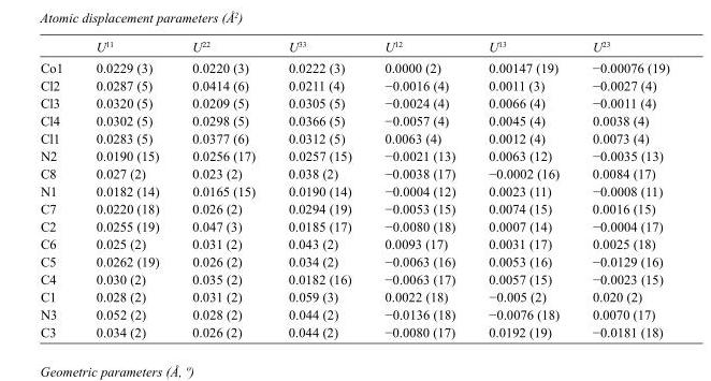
<table><thead><tr><td></td><td>U<sup>11</sup></td><td>U<sup>22</sup></td><td>U<sup>33</sup></td><td>U<sup>12</sup></td><td>U<sup>13</sup></td><td>U<sup>23</sup></td></tr></thead><tbody><tr><td>Co1</td><td>0.0229 (3)</td><td>0.0220 (3)</td><td>0.0222 (3)</td><td>0.0000 (2)</td><td>0.00147 (19)</td><td>−0.00076 (19)</td></tr><tr><td>Cl2</td><td>0.0287 (5)</td><td>0.0414 (6)</td><td>0.0211 (4)</td><td>−0.0016 (4)</td><td>0.0011 (3)</td><td>−0.0027 (4)</td></tr><tr><td>Cl3</td><td>0.0320 (5)</td><td>0.0209 (5)</td><td>0.0305 (5)</td><td>−0.0024 (4)</td><td>0.0066 (4)</td><td>−0.0011 (4)</td></tr><tr><td>Cl4</td><td>0.0302 (5)</td><td>0.0298 (5)</td><td>0.0366 (5)</td><td>−0.0057 (4)</td><td>0.0045 (4)</td><td>0.0038 (4)</td></tr><tr><td>Cl1</td><td>0.0283 (5)</td><td>0.0377 (6)</td><td>0.0312 (5)</td><td>0.0063 (4)</td><td>0.0012 (4)</td><td>0.0073 (4)</td></tr><tr><td>N2</td><td>0.0190 (15)</td><td>0.0256 (17)</td><td>0.0257 (15)</td><td>−0.0021 (13)</td><td>0.0063 (12)</td><td>−0.0035 (13)</td></tr><tr><td>C8</td><td>0.027 (2)</td><td>0.023 (2)</td><td>0.038 (2)</td><td>−0.0038 (17)</td><td>−0.0002 (16)</td><td>0.0084 (17)</td></tr><tr><td>N1</td><td>0.0182 (14)</td><td>0.0165 (15)</td><td>0.0190 (14)</td><td>−0.0004 (12)</td><td>0.0023 (11)</td><td>−0.0008 (11)</td></tr><tr><td>C7</td><td>0.0220 (18)</td><td>0.026 (2)</td><td>0.0294 (19)</td><td>−0.0053 (15)</td><td>0.0074 (15)</td><td>0.0016 (15)</td></tr><tr><td>C2</td><td>0.0255 (19)</td><td>0.047 (3)</td><td>0.0185 (17)</td><td>−0.0080 (18)</td><td>0.0007 (14)</td><td>−0.0004 (17)</td></tr><tr><td>C6</td><td>0.025 (2)</td><td>0.031 (2)</td><td>0.043 (2)</td><td>0.0093 (17)</td><td>0.0031 (17)</td><td>0.0025 (18)</td></tr><tr><td>C5</td><td>0.0262 (19)</td><td>0.026 (2)</td><td>0.034 (2)</td><td>−0.0063 (16)</td><td>0.0053 (16)</td><td>−0.0129 (16)</td></tr><tr><td>C4</td><td>0.030 (2)</td><td>0.035 (2)</td><td>0.0182 (16)</td><td>−0.0063 (17)</td><td>0.0057 (15)</td><td>−0.0023 (15)</td></tr><tr><td>C1</td><td>0.028 (2)</td><td>0.031 (2)</td><td>0.059 (3)</td><td>0.0022 (18)</td><td>−0.005 (2)</td><td>0.020 (2)</td></tr><tr><td>N3</td><td>0.052 (2)</td><td>0.028 (2)</td><td>0.044 (2)</td><td>−0.0136 (18)</td><td>−0.0076 (18)</td><td>0.0070 (17)</td></tr><tr><td>C3</td><td>0.034 (2)</td><td>0.026 (2)</td><td>0.044 (2)</td><td>−0.0080 (17)</td><td>0.0192 (19)</td><td>−0.0181 (18)</td></tr></tbody></table>